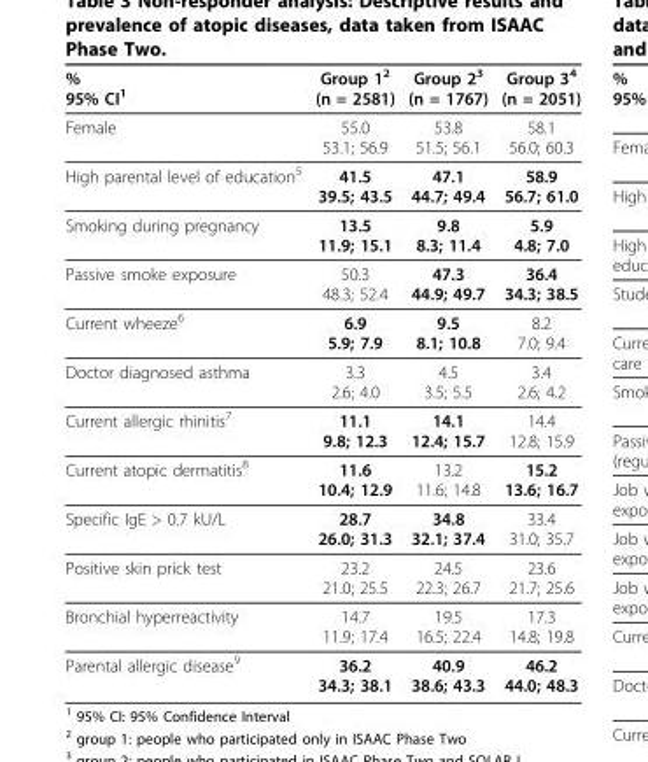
<table><thead><tr><td>% 95% CI<sup>1</sup></td><td>Group 1<sup>2</sup> (n = 2581)</td><td>Group 2<sup>3</sup> (n = 1767)</td><td>Group 3<sup>4</sup> (n = 2051)</td></tr></thead><tbody><tr><td>Female</td><td>55.0 53.1; 56.9</td><td>53.8 51.5; 56.1</td><td>58.1 56.0; 60.3</td></tr><tr><td>High parental level of education<sup>5</sup></td><td>41.5 39.5; 43.5</td><td>47.1 44.7; 49.4</td><td>58.9 56.7; 61.0</td></tr><tr><td>Smoking during pregnancy</td><td>13.5 11.9; 15.1</td><td>9.8 8.3; 11.4</td><td>5.9 4.8; 7.0</td></tr><tr><td>Passive smoke exposure</td><td>50.3 48.3; 52.4</td><td>47.3 44.9; 49.7</td><td>36.4 34.3; 38.5</td></tr><tr><td>Current wheeze<sup>6</sup></td><td>6.9 5.9; 7.9</td><td>9.5 8.1; 10.8</td><td>8.2 7.0; 9.4</td></tr><tr><td>Doctor diagnosed asthma</td><td>3.3 2.6; 4.0</td><td>4.5 3.5; 5.5</td><td>3.4 2.6; 4.2</td></tr><tr><td>Current allergic rhinitis<sup>7</sup></td><td>11.1 9.8; 12.3</td><td>14.1 12.4; 15.7</td><td>14.4 12.8; 15.9</td></tr><tr><td>Current atopic dermatitis<sup>8</sup></td><td>11.6 10.4; 12.9</td><td>13.2 11.6; 14.8</td><td>15.2 13.6; 16.7</td></tr><tr><td>Specific IgE &gt; 0.7 kU/L</td><td>28.7 26.0; 31.3</td><td>34.8 32.1; 37.4</td><td>33.4 31.0; 35.7</td></tr><tr><td>Positive skin prick test</td><td>23.2 21.0; 25.5</td><td>24.5 22.3; 26.7</td><td>23.6 21.7; 25.6</td></tr><tr><td>Bronchial hyperreactivity</td><td>14.7 11.9; 17.4</td><td>19.5 16.5; 22.4</td><td>17.3 14.8; 19.8</td></tr><tr><td>Parental allergic disease<sup>9</sup></td><td>36.2 34.3; 38.1</td><td>40.9 38.6; 43.3</td><td>46.2 44.0; 48.3</td></tr></tbody></table>